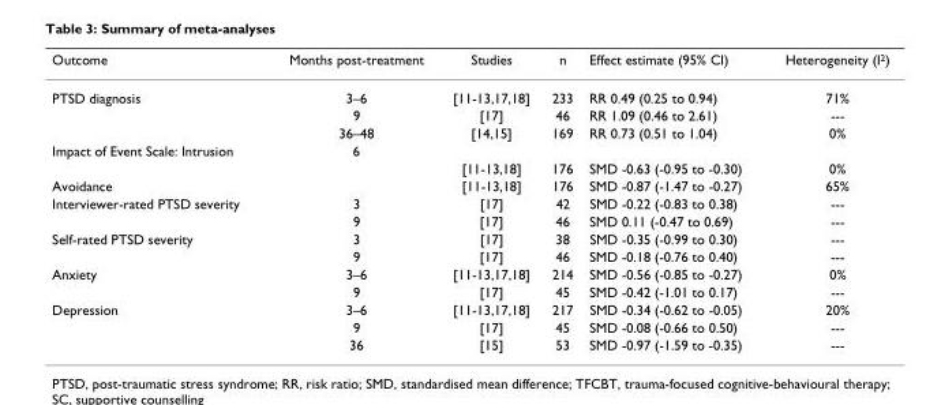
<table><thead><tr><td>Outcome</td><td>Months post-treatment</td><td>Studies</td><td>n</td><td>Effect estimate (95% CI)</td><td>Heterogeneity (I<sup>2</sup>)</td></tr></thead><tbody><tr><td rowspan="3">PTSD diagnosis</td><td>3–6</td><td>[11-13,17,18]</td><td>233</td><td>RR 0.49 (0.25 to 0.94)</td><td>71%</td></tr><tr><td>9</td><td>[17]</td><td>46</td><td>RR 1.09 (0.46 to 2.61)</td><td>---</td></tr><tr><td>36–48</td><td>[14,15]</td><td>169</td><td>RR 0.73 (0.51 to 1.04)</td><td>0%</td></tr><tr><td rowspan="2">Impact of Event Scale: Intrusion</td><td>6</td><td></td><td></td><td></td><td></td></tr><tr><td></td><td>[11-13,18]</td><td>176</td><td>SMD -0.63 (-0.95 to -0.30)</td><td>0%</td></tr><tr><td>Avoidance</td><td></td><td>[11-13,18]</td><td>176</td><td>SMD -0.87 (-1.47 to -0.27)</td><td>65%</td></tr><tr><td rowspan="2">Interviewer-rated PTSD severity</td><td>3</td><td>[17]</td><td>42</td><td>SMD -0.22 (-0.83 to 0.38)</td><td>---</td></tr><tr><td>9</td><td>[17]</td><td>46</td><td>SMD 0.11 (-0.47 to 0.69)</td><td>---</td></tr><tr><td rowspan="2">Self-rated PTSD severity</td><td>3</td><td>[17]</td><td>38</td><td>SMD -0.35 (-0.99 to 0.30)</td><td>---</td></tr><tr><td>9</td><td>[17]</td><td>46</td><td>SMD -0.18 (-0.76 to 0.40)</td><td>---</td></tr><tr><td rowspan="2">Anxiety</td><td>3–6</td><td>[11-13,17,18]</td><td>214</td><td>SMD -0.56 (-0.85 to -0.27)</td><td>0%</td></tr><tr><td>9</td><td>[17]</td><td>45</td><td>SMD -0.42 (-1.01 to 0.17)</td><td>---</td></tr><tr><td rowspan="3">Depression</td><td>3–6</td><td>[11-13,17,18]</td><td>217</td><td>SMD -0.34 (-0.62 to -0.05)</td><td>20%</td></tr><tr><td>9</td><td>[17]</td><td>45</td><td>SMD -0.08 (-0.66 to 0.50)</td><td>---</td></tr><tr><td>36</td><td>[15]</td><td>53</td><td>SMD -0.97 (-1.59 to -0.35)</td><td>---</td></tr></tbody></table>